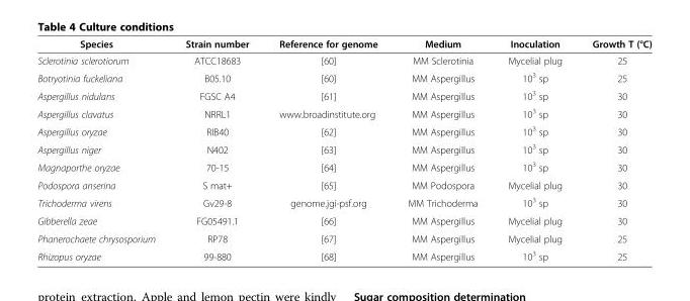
<table><thead><tr><td>Species</td><td>Strain number</td><td>Reference for genome</td><td>Medium</td><td>Inoculation</td><td>Growth T (°C)</td></tr></thead><tbody><tr><td>Sclerotinia sclerotiorum</td><td>ATCC18683</td><td>[60]</td><td>MM Sclerotinia</td><td>Mycelial plug</td><td>25</td></tr><tr><td>Botryotinia fuckeliana</td><td>B05.10</td><td>[60]</td><td>MM Aspergillus</td><td>10<sup>3</sup> sp</td><td>25</td></tr><tr><td>Aspergillus nidulans</td><td>FGSC A4</td><td>[61]</td><td>MM Aspergillus</td><td>10<sup>3</sup> sp</td><td>30</td></tr><tr><td>Aspergillus clavatus</td><td>NRRL1</td><td>www.broadinstitute.org</td><td>MM Aspergillus</td><td>10<sup>3</sup> sp</td><td>30</td></tr><tr><td>Aspergillus oryzae</td><td>RIB40</td><td>[62]</td><td>MM Aspergillus</td><td>10<sup>3</sup> sp</td><td>30</td></tr><tr><td>Aspergillus niger</td><td>N402</td><td>[63]</td><td>MM Aspergillus</td><td>10<sup>3</sup> sp</td><td>30</td></tr><tr><td>Magnaporthe oryzae</td><td>70-15</td><td>[64]</td><td>MM Aspergillus</td><td>10<sup>3</sup> sp</td><td>30</td></tr><tr><td>Podospora anserina</td><td>S mat+</td><td>[65]</td><td>MM Podospora</td><td>Mycelial plug</td><td>30</td></tr><tr><td>Trichoderma virens</td><td>Gv29-8</td><td>genome.jgi-psf.org</td><td>MM Trichoderma</td><td>10<sup>3</sup> sp</td><td>30</td></tr><tr><td>Gibberella zeae</td><td>FG05491.1</td><td>[66]</td><td>MM Aspergillus</td><td>Mycelial plug</td><td>30</td></tr><tr><td>Phanerochaete chrysosporium</td><td>RP78</td><td>[67]</td><td>MM Aspergillus</td><td>Mycelial plug</td><td>25</td></tr><tr><td>Rhizopus oryzae</td><td>99-880</td><td>[68]</td><td>MM Aspergillus</td><td>10<sup>3</sup> sp</td><td>25</td></tr></tbody></table>